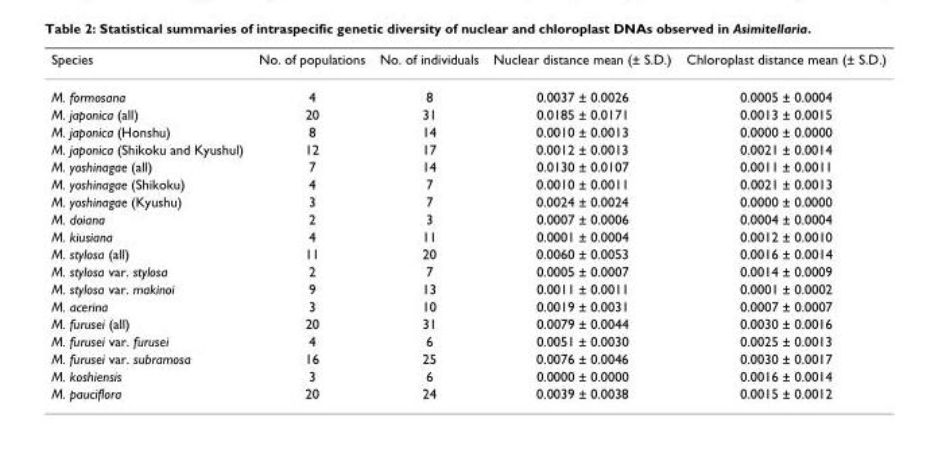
<table><thead><tr><td>Species</td><td>No. of populations</td><td>No. of individuals</td><td>Nuclear distance mean (± S.D.)</td><td>Chloroplast distance mean (± S.D.)</td></tr></thead><tbody><tr><td>M. formosana</td><td>4</td><td>8</td><td>0.0037 ± 0.0026</td><td>0.0005 ± 0.0004</td></tr><tr><td>M. japonica (all)</td><td>20</td><td>31</td><td>0.0185 ± 0.0171</td><td>0.0013 ± 0.0015</td></tr><tr><td>M. japonica (Honshu)</td><td>8</td><td>14</td><td>0.0010 ± 0.0013</td><td>0.0000 ± 0.0000</td></tr><tr><td>M. japonica (Shikoku and Kyushul)</td><td>12</td><td>17</td><td>0.0012 ± 0.0013</td><td>0.0021 ± 0.0014</td></tr><tr><td>M. yoshinagae (all)</td><td>7</td><td>14</td><td>0.0130 ± 0.0107</td><td>0.0011 ± 0.0011</td></tr><tr><td>M. yoshinagae (Shikoku)</td><td>4</td><td>7</td><td>0.0010 ± 0.0011</td><td>0.0021 ± 0.0013</td></tr><tr><td>M. yoshinagae (Kyushu)</td><td>3</td><td>7</td><td>0.0024 ± 0.0024</td><td>0.0000 ± 0.0000</td></tr><tr><td>M. doiana</td><td>2</td><td>3</td><td>0.0007 ± 0.0006</td><td>0.0004 ± 0.0004</td></tr><tr><td>M. kiusiana</td><td>4</td><td>11</td><td>0.0001 ± 0.0004</td><td>0.0012 ± 0.0010</td></tr><tr><td>M. stylosa (all)</td><td>11</td><td>20</td><td>0.0060 ± 0.0053</td><td>0.0016 ± 0.0014</td></tr><tr><td>M. stylosa var. stylosa</td><td>2</td><td>7</td><td>0.0005 ± 0.0007</td><td>0.0014 ± 0.0009</td></tr><tr><td>M. stylosa var. makinoi</td><td>9</td><td>13</td><td>0.0011 ± 0.0011</td><td>0.0001 ± 0.0002</td></tr><tr><td>M. acerina</td><td>3</td><td>10</td><td>0.0019 ± 0.0031</td><td>0.0007 ± 0.0007</td></tr><tr><td>M. furusei (all)</td><td>20</td><td>31</td><td>0.0079 ± 0.0044</td><td>0.0030 ± 0.0016</td></tr><tr><td>M. furusei var. furusei</td><td>4</td><td>6</td><td>0.0051 ± 0.0030</td><td>0.0025 ± 0.0013</td></tr><tr><td>M. furusei var. subramosa</td><td>16</td><td>25</td><td>0.0076 ± 0.0046</td><td>0.0030 ± 0.0017</td></tr><tr><td>M. koshiensis</td><td>3</td><td>6</td><td>0.0000 ± 0.0000</td><td>0.0016 ± 0.0014</td></tr><tr><td>M. pauciflora</td><td>20</td><td>24</td><td>0.0039 ± 0.0038</td><td>0.0015 ± 0.0012</td></tr></tbody></table>